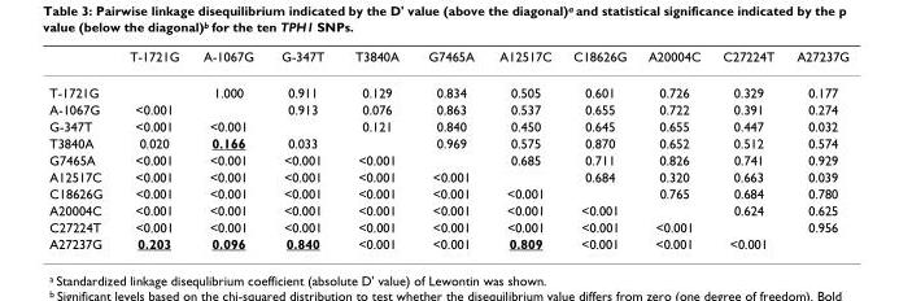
<table><thead><tr><td></td><td>T-1721G</td><td>A-1067G</td><td>G-347T</td><td>T3840A</td><td>G7465A</td><td>A12517C</td><td>C18626G</td><td>A20004C</td><td>C27224T</td><td>A27237G</td></tr></thead><tbody><tr><td>T-1721G</td><td></td><td>1.000</td><td>0.911</td><td>0.129</td><td>0.834</td><td>0.505</td><td>0.601</td><td>0.726</td><td>0.329</td><td>0.177</td></tr><tr><td>A-1067G</td><td>&lt;0.001</td><td></td><td>0.913</td><td>0.076</td><td>0.863</td><td>0.537</td><td>0.655</td><td>0.722</td><td>0.391</td><td>0.274</td></tr><tr><td>G-347T</td><td>&lt;0.001</td><td>&lt;0.001</td><td></td><td>0.121</td><td>0.840</td><td>0.450</td><td>0.645</td><td>0.655</td><td>0.447</td><td>0.032</td></tr><tr><td>T3840A</td><td>0.020</td><td>0.166</td><td>0.033</td><td></td><td>0.969</td><td>0.575</td><td>0.870</td><td>0.652</td><td>0.512</td><td>0.574</td></tr><tr><td>G7465A</td><td>&lt;0.001</td><td>&lt;0.001</td><td>&lt;0.001</td><td>&lt;0.001</td><td></td><td>0.685</td><td>0.711</td><td>0.826</td><td>0.741</td><td>0.929</td></tr><tr><td>A12517C</td><td>&lt;0.001</td><td>&lt;0.001</td><td>&lt;0.001</td><td>&lt;0.001</td><td>&lt;0.001</td><td></td><td>0.684</td><td>0.320</td><td>0.663</td><td>0.039</td></tr><tr><td>C18626G</td><td>&lt;0.001</td><td>&lt;0.001</td><td>&lt;0.001</td><td>&lt;0.001</td><td>&lt;0.001</td><td>&lt;0.001</td><td></td><td>0.765</td><td>0.684</td><td>0.780</td></tr><tr><td>A20004C</td><td>&lt;0.001</td><td>&lt;0.001</td><td>&lt;0.001</td><td>&lt;0.001</td><td>&lt;0.001</td><td>&lt;0.001</td><td>&lt;0.001</td><td></td><td>0.624</td><td>0.625</td></tr><tr><td>C27224T</td><td>&lt;0.001</td><td>&lt;0.001</td><td>&lt;0.001</td><td>&lt;0.001</td><td>&lt;0.001</td><td>&lt;0.001</td><td>&lt;0.001</td><td>&lt;0.001</td><td></td><td>0.956</td></tr><tr><td>A27237G</td><td>0.203</td><td>0.096</td><td>0.840</td><td>&lt;0.001</td><td>&lt;0.001</td><td>0.809</td><td>&lt;0.001</td><td>&lt;0.001</td><td>&lt;0.001</td><td></td></tr></tbody></table>